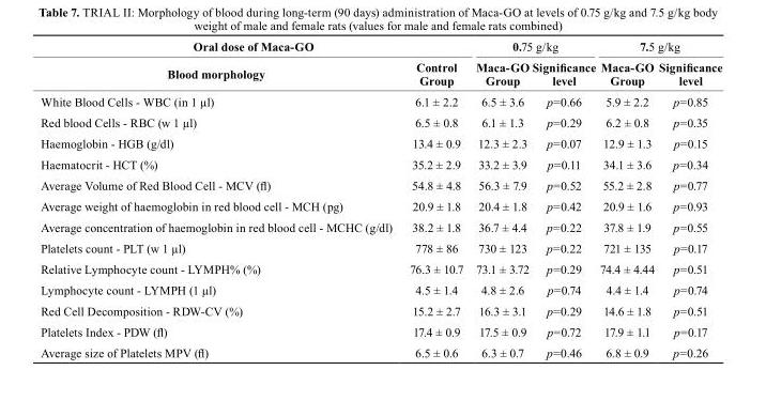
<table><thead><tr><td colspan="2">Oral dose of Maca-GO</td><td colspan="2">0.75 g/kg</td><td colspan="2">7.5 g/kg</td></tr><tr><td>blood morphology</td><td>control Group</td><td>Maca-GO Group</td><td>Significance level</td><td>Maca-GO Group</td><td>Significance level</td></tr></thead><tbody><tr><td>White Blood Cells - WBC (in 1 µl)</td><td>6.1 ± 2.2</td><td>6.5 ± 3.6</td><td>p=0.66</td><td>5.9 ± 2.2</td><td>p=0.85</td></tr><tr><td>Red blood Cells - RBC (w 1 µl)</td><td>6.5 ± 0.8</td><td>6.1 ± 1.3</td><td>p=0.29</td><td>6.2 ± 0.8</td><td>p=0.35</td></tr><tr><td>Haemoglobin - HGB (g/dl)</td><td>13.4 ± 0.9</td><td>12.3 ± 2.3</td><td>p=0.07</td><td>12.9 ± 1.3</td><td>p=0.15</td></tr><tr><td>Haematocrit - HCT (%)</td><td>35.2 ± 2.9</td><td>33.2 ± 3.9</td><td>p=0.11</td><td>34.1 ± 3.6</td><td>p=0.34</td></tr><tr><td>Average Volume of Red Blood Cell - MCV (fl)</td><td>54.8 ± 4.8</td><td>56.3 ± 7.9</td><td>p=0.52</td><td>55.2 ± 2.8</td><td>p=0.77</td></tr><tr><td>Average weight of haemoglobin in red blood cell - MCH (pg)</td><td>20.9 ± 1.8</td><td>20.4 ± 1.8</td><td>p=0.42</td><td>20.9 ± 1.6</td><td>p=0.93</td></tr><tr><td>Average concentration of haemoglobin in red blood cell - MCHC (g/dl)</td><td>38.2 ± 1.8</td><td>36.7 ± 4.4</td><td>p=0.22</td><td>37.8 ± 1.9</td><td>p=0.55</td></tr><tr><td>Platelets count - PLT (w 1 µl)</td><td>778 ± 86</td><td>730 ± 123</td><td>p=0.22</td><td>721 ± 135</td><td>p=0.17</td></tr><tr><td>Relative Lymphocyte count - LYMPH% (%)</td><td>76.3 ± 10.7</td><td>73.1 ± 3.72</td><td>p=0.29</td><td>74.4 ± 4.44</td><td>p=0.51</td></tr><tr><td>Lymphocyte count - LYMPH (1 µl)</td><td>4.5 ± 1.4</td><td>4.8 ± 2.6</td><td>p=0.74</td><td>4.4 ± 1.4</td><td>p=0.74</td></tr><tr><td>Red Cell Decomposition - RDW-CV (%)</td><td>15.2 ± 2.7</td><td>16.3 ± 3.1</td><td>p=0.29</td><td>14.6 ± 1.8</td><td>p=0.51</td></tr><tr><td>Platelets Index - PDW (fl)</td><td>17.4 ± 0.9</td><td>17.5 ± 0.9</td><td>p=0.72</td><td>17.9 ± 1.1</td><td>p=0.17</td></tr><tr><td>Average size of Platelets MPV (fl)</td><td>6.5 ± 0.6</td><td>6.3 ± 0.7</td><td>p=0.46</td><td>6.8 ± 0.9</td><td>p=0.26</td></tr></tbody></table>